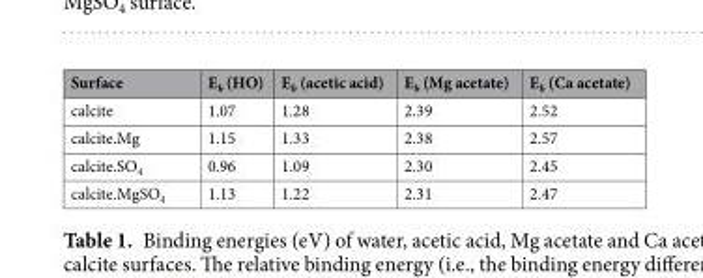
<table><thead><tr><td>Surface</td><td>E<sub>b</sub> (HO)</td><td>E<sub>b</sub> (acetic acid)</td><td>E<sub>b</sub> (Mg acetate)</td><td>E<sub>b</sub> (Ca acetate)</td></tr></thead><tbody><tr><td>calcite</td><td>1.07</td><td>1.28</td><td>2.39</td><td>2.52</td></tr><tr><td>calcite.Mg</td><td>1.15</td><td>1.33</td><td>2.38</td><td>2.57</td></tr><tr><td>calcite.SO<sub>4</sub></td><td>0.96</td><td>1.09</td><td>2.30</td><td>2.45</td></tr><tr><td>calcite.MgSO<sub>4</sub></td><td>1.13</td><td>1.22</td><td>2.31</td><td>2.47</td></tr></tbody></table>